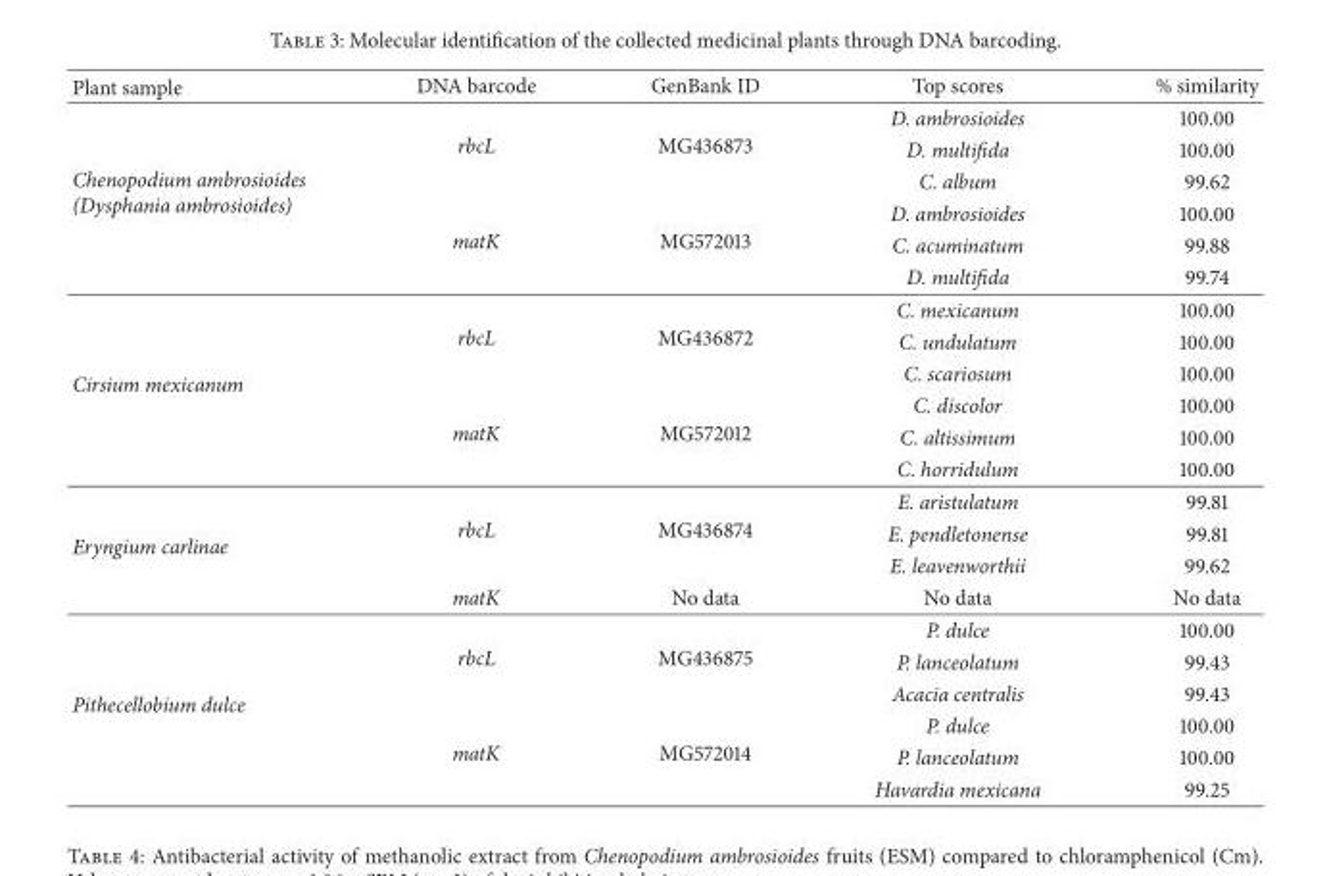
<table><thead><tr><td>Plant sample</td><td>DNA barcode</td><td>GenBank ID</td><td>Top scores</td><td>% similarity</td></tr></thead><tbody><tr><td rowspan="6">Chenopodium ambrosioides (Dysphania ambrosioides)</td><td rowspan="3">rbcL</td><td rowspan="3">MG436873</td><td>D. ambrosioides</td><td>100.00</td></tr><tr><td>D. multifida</td><td>100.00</td></tr><tr><td>C. album</td><td>99.62</td></tr><tr><td rowspan="3">matK</td><td rowspan="3">MG572013</td><td>D. ambrosioides</td><td>100.00</td></tr><tr><td>C. acuminatum</td><td>99.88</td></tr><tr><td>D. multifida</td><td>99.74</td></tr><tr><td rowspan="6">Cirsium mexicanum</td><td rowspan="3">rbcL</td><td rowspan="3">MG436872</td><td>C. mexicanum</td><td>100.00</td></tr><tr><td>C. undulatum</td><td>100.00</td></tr><tr><td>C. scariosum</td><td>100.00</td></tr><tr><td rowspan="3">matK</td><td rowspan="3">MG572012</td><td>C. discolor</td><td>100.00</td></tr><tr><td>C. altissimum</td><td>100.00</td></tr><tr><td>C. horridulum</td><td>100.00</td></tr><tr><td rowspan="4">Eryngium carlinae</td><td rowspan="3">rbcL</td><td rowspan="3">MG436874</td><td>E. aristulatum</td><td>99.81</td></tr><tr><td>E. pendletonense</td><td>99.81</td></tr><tr><td>E. leavenworthii</td><td>99.62</td></tr><tr><td>matK</td><td>No data</td><td>No data</td><td>No data</td></tr><tr><td rowspan="6">Pithecellobium dulce</td><td rowspan="3">rbcL</td><td rowspan="3">MG436875</td><td>P. dulce</td><td>100.00</td></tr><tr><td>P. lanceolatum</td><td>99.43</td></tr><tr><td>Acacia centralis</td><td>99.43</td></tr><tr><td rowspan="3">matK</td><td rowspan="3">MG572014</td><td>P. dulce</td><td>100.00</td></tr><tr><td>P. lanceolatum</td><td>100.00</td></tr><tr><td>Havardia mexicana</td><td>99.25</td></tr></tbody></table>